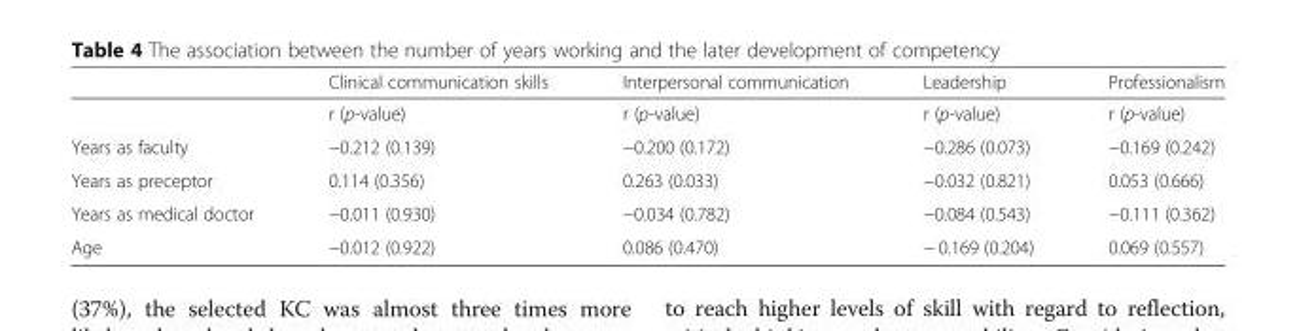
<table><thead><tr><td></td><td>Clinical communication skills</td><td>Interpersonal communication</td><td>Leadership</td><td>Professionalism</td></tr></thead><tbody><tr><td></td><td>r (p-value)</td><td>r (p-value)</td><td>r (p-value)</td><td>r (p-value)</td></tr><tr><td>Years as faculty</td><td>−0.212 (0.139)</td><td>−0.200 (0.172)</td><td>−0.286 (0.073)</td><td>−0.169 (0.242)</td></tr><tr><td>Years as preceptor</td><td>0.114 (0.356)</td><td>0.263 (0.033)</td><td>−0.032 (0.821)</td><td>0.053 (0.666)</td></tr><tr><td>Years as medical doctor</td><td>−0.011 (0.930)</td><td>−0.034 (0.782)</td><td>−0.084 (0.543)</td><td>−0.111 (0.362)</td></tr><tr><td>Age</td><td>−0.012 (0.922)</td><td>0.086 (0.470)</td><td>− 0.169 (0.204)</td><td>0.069 (0.557)</td></tr></tbody></table>